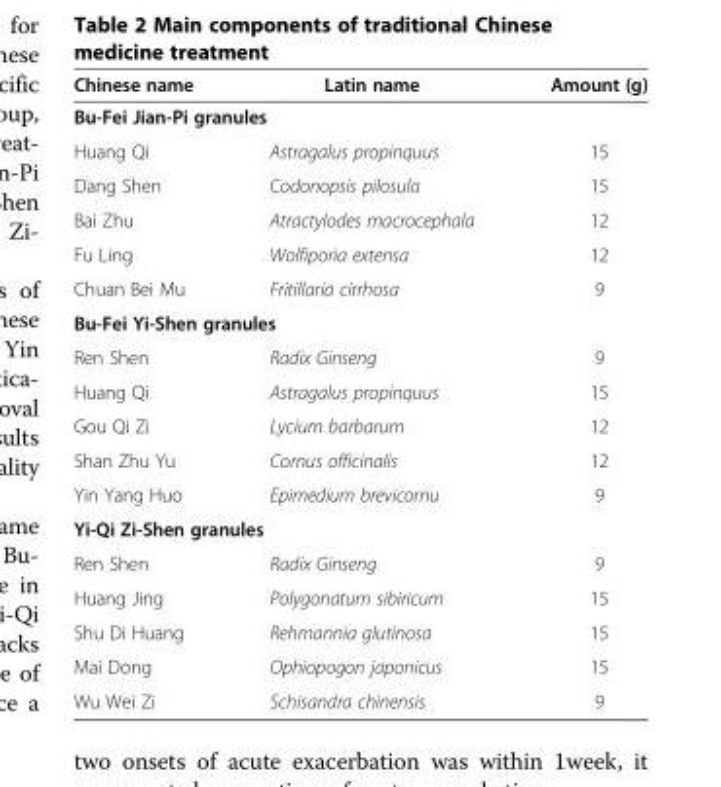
<table><thead><tr><td>Chinese name</td><td>Latin name</td><td>Amount (g)</td></tr></thead><tbody><tr><td colspan="3">Bu-Fei Jian-Pi granules</td></tr><tr><td>Huang Qi</td><td>Astragalus propinquus</td><td>15</td></tr><tr><td>Dang Shen</td><td>Codonopsis pilosula</td><td>15</td></tr><tr><td>Bai Zhu</td><td>Atractylodes macrocephala</td><td>12</td></tr><tr><td>Fu Ling</td><td>Wolfiporia extensa</td><td>12</td></tr><tr><td>Chuan Bei Mu</td><td>Fritillaria cirrhosa</td><td>9</td></tr><tr><td colspan="3">Bu-Fei Yi-Shen granules</td></tr><tr><td>Ren Shen</td><td>Radix Ginseng</td><td>9</td></tr><tr><td>Huang Qi</td><td>Astragalus propinquus</td><td>15</td></tr><tr><td>Gou Qi Zi</td><td>Lycium barbarum</td><td>12</td></tr><tr><td>Shan Zhu Yu</td><td>Cornus officinalis</td><td>12</td></tr><tr><td>Yin Yang Huo</td><td>Epimedium brevicornu</td><td>9</td></tr><tr><td colspan="3">Yi-Qi Zi-Shen granules</td></tr><tr><td>Ren Shen</td><td>Radix Ginseng</td><td>9</td></tr><tr><td>Huang Jing</td><td>Polygonatum sibiricum</td><td>15</td></tr><tr><td>Shu Di Huang</td><td>Rehmannia glutinosa</td><td>15</td></tr><tr><td>Mai Dong</td><td>Ophiopogon japonicus</td><td>15</td></tr><tr><td>Wu Wei Zi</td><td>Schisandra chinensis</td><td>9</td></tr></tbody></table>